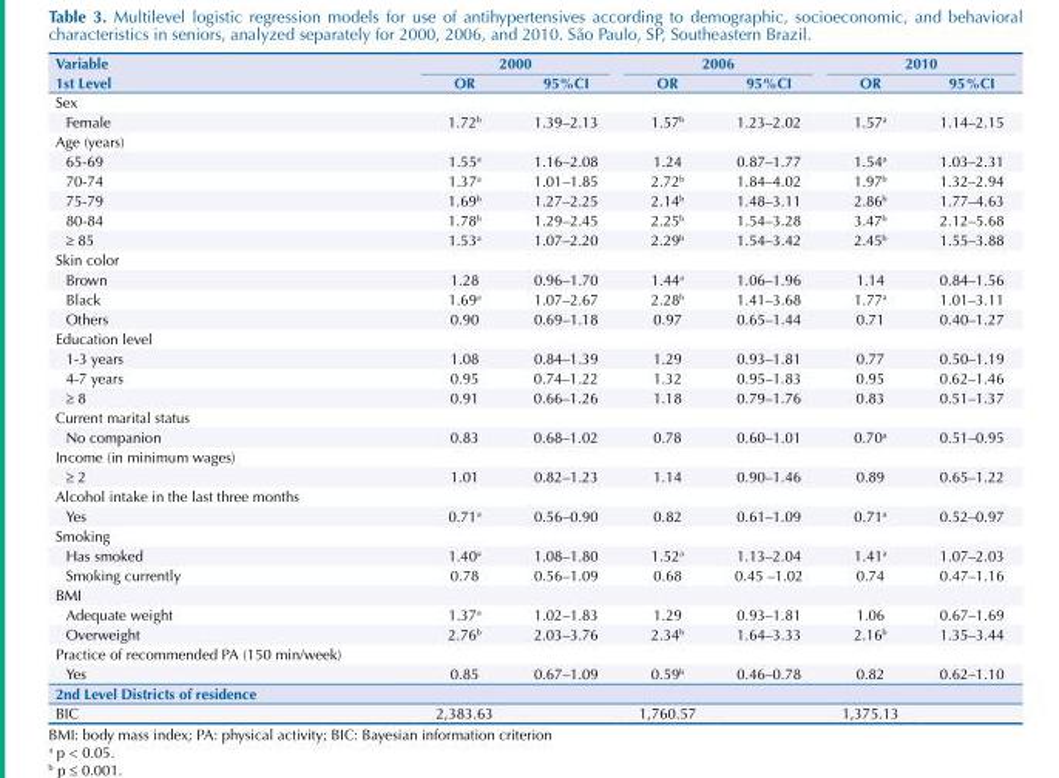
<table><thead><tr><td rowspan="2">Variable 1st Level</td><td colspan="2">2000</td><td colspan="2">2006</td><td colspan="2">2010</td></tr><tr><td>OR</td><td>95%CI</td><td>OR</td><td>95%CI</td><td>OR</td><td>95%CI</td></tr></thead><tbody><tr><td colspan="7">Sex</td></tr><tr><td>Female</td><td>1.72<sup>b</sup></td><td>1.39–2.13</td><td>1.57<sup>b</sup></td><td>1.23–2.02</td><td>1.57<sup>a</sup></td><td>1.14–2.15</td></tr><tr><td colspan="7">Age (years)</td></tr><tr><td>65-69</td><td>1.55<sup>a</sup></td><td>1.16–2.08</td><td>1.24</td><td>0.87–1.77</td><td>1.54<sup>a</sup></td><td>1.03–2.31</td></tr><tr><td>70-74</td><td>1.37<sup>a</sup></td><td>1.01–1.85</td><td>2.72<sup>b</sup></td><td>1.84–4.02</td><td>1.97<sup>b</sup></td><td>1.32–2.94</td></tr><tr><td>75-79</td><td>1.69<sup>b</sup></td><td>1.27–2.25</td><td>2.14<sup>b</sup></td><td>1.48–3.11</td><td>2.86<sup>b</sup></td><td>1.77–4.63</td></tr><tr><td>80-84</td><td>1.78<sup>b</sup></td><td>1.29–2.45</td><td>2.25<sup>b</sup></td><td>1.54–3.28</td><td>3.47<sup>b</sup></td><td>2.12–5.68</td></tr><tr><td>≥ 85</td><td>1.53<sup>a</sup></td><td>1.07–2.20</td><td>2.29<sup>b</sup></td><td>1.54–3.42</td><td>2.45<sup>b</sup></td><td>1.55–3.88</td></tr><tr><td colspan="7">Skin color</td></tr><tr><td>Brown</td><td>1.28</td><td>0.96–1.70</td><td>1.44<sup>a</sup></td><td>1.06–1.96</td><td>1.14</td><td>0.84–1.56</td></tr><tr><td>Black</td><td>1.69<sup>a</sup></td><td>1.07–2.67</td><td>2.28<sup>b</sup></td><td>1.41–3.68</td><td>1.77<sup>a</sup></td><td>1.01–3.11</td></tr><tr><td>Others</td><td>0.90</td><td>0.69–1.18</td><td>0.97</td><td>0.65–1.44</td><td>0.71</td><td>0.40–1.27</td></tr><tr><td colspan="7">Education level</td></tr><tr><td>1-3 years</td><td>1.08</td><td>0.84–1.39</td><td>1.29</td><td>0.93–1.81</td><td>0.77</td><td>0.50–1.19</td></tr><tr><td>4-7 years</td><td>0.95</td><td>0.74–1.22</td><td>1.32</td><td>0.95–1.83</td><td>0.95</td><td>0.62–1.46</td></tr><tr><td>≥ 8</td><td>0.91</td><td>0.66–1.26</td><td>1.18</td><td>0.79–1.76</td><td>0.83</td><td>0.51–1.37</td></tr><tr><td colspan="7">Current marital status</td></tr><tr><td>No companion</td><td>0.83</td><td>0.68–1.02</td><td>0.78</td><td>0.60–1.01</td><td>0.70<sup>a</sup></td><td>0.51–0.95</td></tr><tr><td colspan="7">Income (in minimum wages)</td></tr><tr><td>≥ 2</td><td>1.01</td><td>0.82–1.23</td><td>1.14</td><td>0.90–1.46</td><td>0.89</td><td>0.65–1.22</td></tr><tr><td colspan="7">Alcohol intake in the last three months</td></tr><tr><td>Yes</td><td>0.71<sup>a</sup></td><td>0.56–0.90</td><td>0.82</td><td>0.61–1.09</td><td>0.71<sup>a</sup></td><td>0.52–0.97</td></tr><tr><td colspan="7">Smoking</td></tr><tr><td>Has smoked</td><td>1.40<sup>a</sup></td><td>1.08–1.80</td><td>1.52<sup>a</sup></td><td>1.13–2.04</td><td>1.41<sup>a</sup></td><td>1.07–2.03</td></tr><tr><td>Smoking currently</td><td>0.78</td><td>0.56–1.09</td><td>0.68</td><td>0.45 –1.02</td><td>0.74</td><td>0.47–1.16</td></tr><tr><td colspan="7">BMI</td></tr><tr><td>Adequate weight</td><td>1.37<sup>a</sup></td><td>1.02–1.83</td><td>1.29</td><td>0.93–1.81</td><td>1.06</td><td>0.67–1.69</td></tr><tr><td>Overweight</td><td>2.76<sup>b</sup></td><td>2.03–3.76</td><td>2.34<sup>b</sup></td><td>1.64–3.33</td><td>2.16<sup>b</sup></td><td>1.35–3.44</td></tr><tr><td colspan="7">Practice of recommended PA (150 min/week)</td></tr><tr><td>Yes</td><td>0.85</td><td>0.67–1.09</td><td>0.59<sup>b</sup></td><td>0.46–0.78</td><td>0.82</td><td>0.62–1.10</td></tr><tr><td colspan="7">2nd Level Districts of residence</td></tr><tr><td>BIC</td><td>2,383.63</td><td></td><td>1,760.57</td><td></td><td>1,375.13</td><td></td></tr></tbody></table>